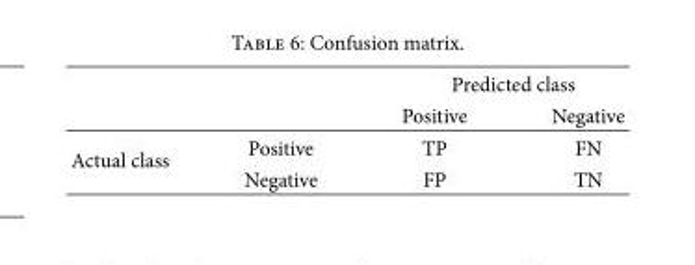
<table><thead><tr><td rowspan="2"></td><td rowspan="2"></td><td colspan="2">Predicted class</td></tr><tr><td>Positive</td><td>Negative</td></tr></thead><tbody><tr><td rowspan="2">Actual class</td><td>Positive</td><td>TP</td><td>FN</td></tr><tr><td>Negative</td><td>FP</td><td>TN</td></tr></tbody></table>